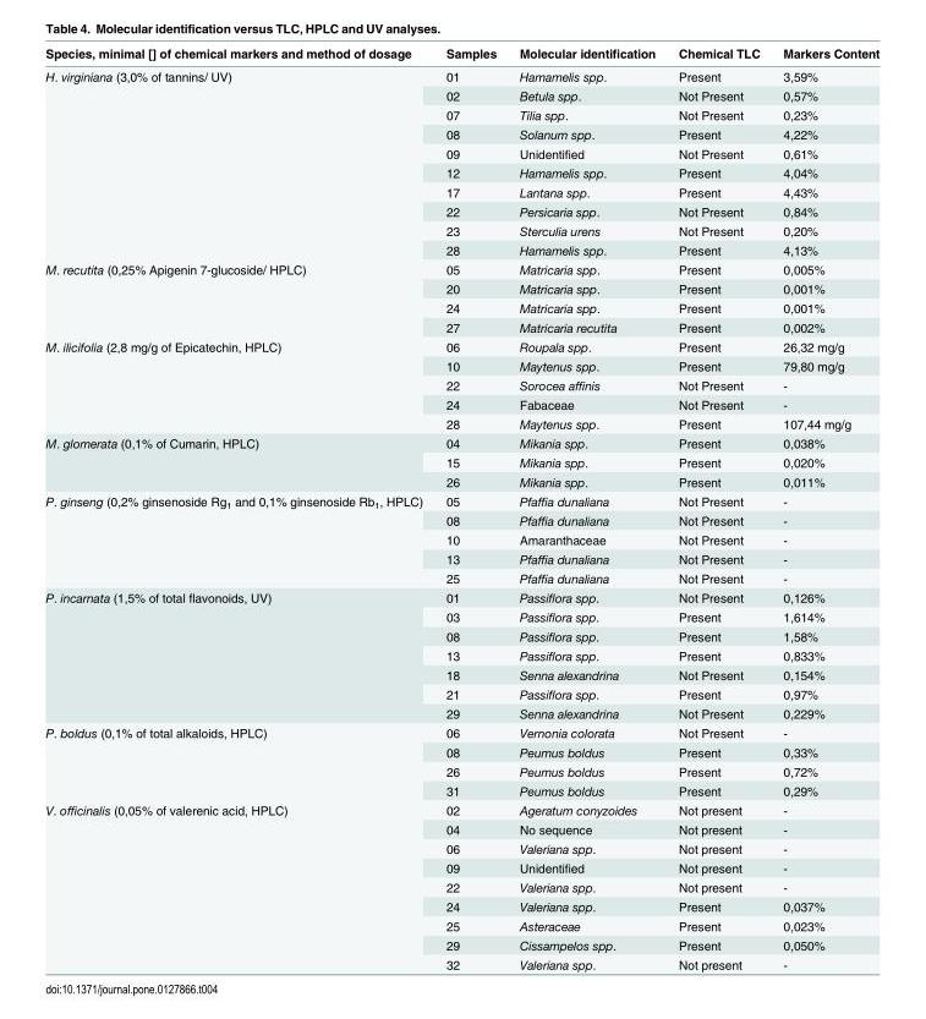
<table><thead><tr><td>Species, minimal [] of chemical markers and method of dosage</td><td>Samples</td><td>Molecular identification</td><td>Chemical TLC</td><td>Markers Content</td></tr></thead><tbody><tr><td rowspan="10">H. virginiana (3,0% of tannins/ UV)</td><td>01</td><td>Hamamelis spp.</td><td>Present</td><td>3,59%</td></tr><tr><td>02</td><td>Betula spp.</td><td>Not Present</td><td>0,57%</td></tr><tr><td>07</td><td>Tilia spp.</td><td>Not Present</td><td>0,23%</td></tr><tr><td>08</td><td>Solanum spp.</td><td>Present</td><td>4,22%</td></tr><tr><td>09</td><td>Unidentified</td><td>Not Present</td><td>0,61%</td></tr><tr><td>12</td><td>Hamamelis spp.</td><td>Present</td><td>4,04%</td></tr><tr><td>17</td><td>Lantana spp.</td><td>Present</td><td>4,43%</td></tr><tr><td>22</td><td>Persicaria spp.</td><td>Not Present</td><td>0,84%</td></tr><tr><td>23</td><td>Sterculia urens</td><td>Not Present</td><td>0,20%</td></tr><tr><td>28</td><td>Hamamelis spp.</td><td>Present</td><td>4,13%</td></tr><tr><td rowspan="4">M. recutita (0,25% Apigenin 7-glucoside/ HPLC)</td><td>05</td><td>Matricaria spp.</td><td>Present</td><td>0,005%</td></tr><tr><td>20</td><td>Matricaria spp.</td><td>Present</td><td>0,001%</td></tr><tr><td>24</td><td>Matricaria spp.</td><td>Present</td><td>0,001%</td></tr><tr><td>27</td><td>Matricaria recutita</td><td>Present</td><td>0,002%</td></tr><tr><td rowspan="5">M. ilicifolia (2,8 mg/g of Epicatechin, HPLC)</td><td>06</td><td>Roupala spp.</td><td>Present</td><td>26,32 mg/g</td></tr><tr><td>10</td><td>Maytenus spp.</td><td>Present</td><td>79,80 mg/g</td></tr><tr><td>22</td><td>Sorocea affinis</td><td>Not Present</td><td>-</td></tr><tr><td>24</td><td>Fabaceae</td><td>Not Present</td><td>-</td></tr><tr><td>28</td><td>Maytenus spp.</td><td>Present</td><td>107,44 mg/g</td></tr><tr><td rowspan="3">M. glomerata (0,1% of Cumarin, HPLC)</td><td>04</td><td>Mikania spp.</td><td>Present</td><td>0,038%</td></tr><tr><td>15</td><td>Mikania spp.</td><td>Present</td><td>0,020%</td></tr><tr><td>26</td><td>Mikania spp.</td><td>Present</td><td>0,011%</td></tr><tr><td rowspan="5">P. ginseng (0,2% ginsenoside Rg<sub>1</sub> and 0,1% ginsenoside Rb<sub>1</sub>, HPLC)</td><td>05</td><td>Pfaffia dunaliana</td><td>Not Present</td><td>-</td></tr><tr><td>08</td><td>Pfaffia dunaliana</td><td>Not Present</td><td>-</td></tr><tr><td>10</td><td>Amaranthaceae</td><td>Not Present</td><td>-</td></tr><tr><td>13</td><td>Pfaffia dunaliana</td><td>Not Present</td><td>-</td></tr><tr><td>25</td><td>Pfaffia dunaliana</td><td>Not Present</td><td>-</td></tr><tr><td rowspan="7">P. incarnata (1,5% of total flavonoids, UV)</td><td>01</td><td>Passiflora spp.</td><td>Not Present</td><td>0,126%</td></tr><tr><td>03</td><td>Passiflora spp.</td><td>Present</td><td>1,614%</td></tr><tr><td>08</td><td>Passiflora spp.</td><td>Present</td><td>1,58%</td></tr><tr><td>13</td><td>Passiflora spp.</td><td>Present</td><td>0,833%</td></tr><tr><td>18</td><td>Senna alexandrina</td><td>Not Present</td><td>0,154%</td></tr><tr><td>21</td><td>Passiflora spp.</td><td>Present</td><td>0,97%</td></tr><tr><td>29</td><td>Senna alexandrina</td><td>Not Present</td><td>0,229%</td></tr><tr><td rowspan="4">P. boldus (0,1% of total alkaloids, HPLC)</td><td>06</td><td>Vernonia colorata</td><td>Not Present</td><td>-</td></tr><tr><td>08</td><td>Peumus boldus</td><td>Present</td><td>0,33%</td></tr><tr><td>26</td><td>Peumus boldus</td><td>Present</td><td>0,72%</td></tr><tr><td>31</td><td>Peumus boldus</td><td>Present</td><td>0,29%</td></tr><tr><td rowspan="9">V. officinalis (0,05% of valerenic acid, HPLC)</td><td>02</td><td>Ageratum conyzoides</td><td>Not present</td><td>-</td></tr><tr><td>04</td><td>No sequence</td><td>Not present</td><td>-</td></tr><tr><td>06</td><td>Valeriana spp.</td><td>Not present</td><td>-</td></tr><tr><td>09</td><td>Unidentified</td><td>Not present</td><td>-</td></tr><tr><td>22</td><td>Valeriana spp.</td><td>Not present</td><td>-</td></tr><tr><td>24</td><td>Valeriana spp.</td><td>Present</td><td>0,037%</td></tr><tr><td>25</td><td>Asteraceae</td><td>Present</td><td>0,023%</td></tr><tr><td>29</td><td>Cissampelos spp.</td><td>Present</td><td>0,050%</td></tr><tr><td>32</td><td>Valeriana spp.</td><td>Not present</td><td>-</td></tr></tbody></table>